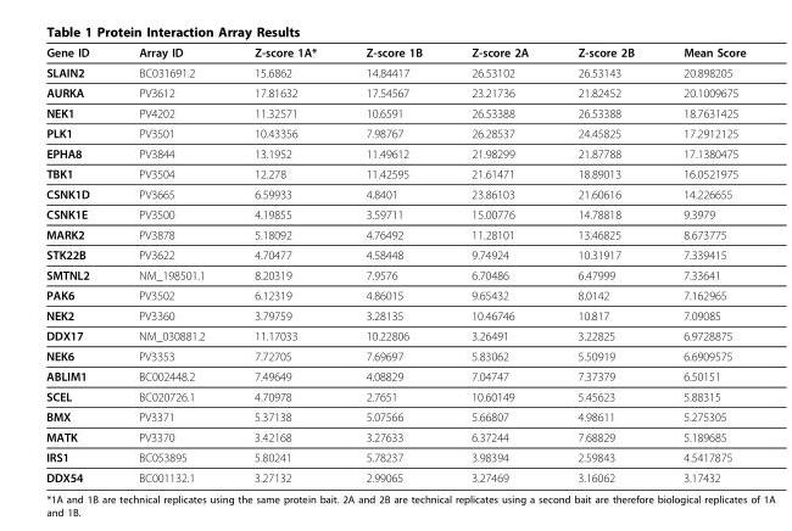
<table><thead><tr><td>Gene ID</td><td>Array ID</td><td>Z-score 1A*</td><td>Z-score 1B</td><td>Z-score 2A</td><td>Z-score 2B</td><td>Mean Score</td></tr></thead><tbody><tr><td>SLAIN2</td><td>BC031691.2</td><td>15.6862</td><td>14.84417</td><td>26.53102</td><td>26.53143</td><td>20.898205</td></tr><tr><td>AURKA</td><td>PV3612</td><td>17.81632</td><td>17.54567</td><td>23.21736</td><td>21.82452</td><td>20.1009675</td></tr><tr><td>NEK1</td><td>PV4202</td><td>11.32571</td><td>10.6591</td><td>26.53388</td><td>26.53388</td><td>18.7631425</td></tr><tr><td>PLK1</td><td>PV3501</td><td>10.43356</td><td>7.98767</td><td>26.28537</td><td>24.45825</td><td>17.2912125</td></tr><tr><td>EPHA8</td><td>PV3844</td><td>13.1952</td><td>11.49612</td><td>21.98299</td><td>21.87788</td><td>17.1380475</td></tr><tr><td>TBK1</td><td>PV3504</td><td>12.278</td><td>11.42595</td><td>21.61471</td><td>18.89013</td><td>16.0521975</td></tr><tr><td>CSNK1D</td><td>PV3665</td><td>6.59933</td><td>4.8401</td><td>23.86103</td><td>21.60616</td><td>14.226655</td></tr><tr><td>CSNK1E</td><td>PV3500</td><td>4.19855</td><td>3.59711</td><td>15.00776</td><td>14.78818</td><td>9.3979</td></tr><tr><td>MARK2</td><td>PV3878</td><td>5.18092</td><td>4.76492</td><td>11.28101</td><td>13.46825</td><td>8.673775</td></tr><tr><td>STK22B</td><td>PV3622</td><td>4.70477</td><td>4.58448</td><td>9.74924</td><td>10.31917</td><td>7.339415</td></tr><tr><td>SMTNL2</td><td>NM_198501.1</td><td>8.20319</td><td>7.9576</td><td>6.70486</td><td>6.47999</td><td>7.33641</td></tr><tr><td>PAK6</td><td>PV3502</td><td>6.12319</td><td>4.86015</td><td>9.65432</td><td>8.0142</td><td>7.162965</td></tr><tr><td>NEK2</td><td>PV3360</td><td>3.79759</td><td>3.28135</td><td>10.46746</td><td>10.817</td><td>7.09085</td></tr><tr><td>DDX17</td><td>NM_030881.2</td><td>11.17033</td><td>10.22806</td><td>3.26491</td><td>3.22825</td><td>6.9728875</td></tr><tr><td>NEK6</td><td>PV3353</td><td>7.72705</td><td>7.69697</td><td>5.83062</td><td>5.50919</td><td>6.6909575</td></tr><tr><td>ABLIM1</td><td>BC002448.2</td><td>7.49649</td><td>4.08829</td><td>7.04747</td><td>7.37379</td><td>6.50151</td></tr><tr><td>SCEL</td><td>BC020726.1</td><td>4.70978</td><td>2.7651</td><td>10.60149</td><td>5.45623</td><td>5.88315</td></tr><tr><td>BMX</td><td>PV3371</td><td>5.37138</td><td>5.07566</td><td>5.66807</td><td>4.98611</td><td>5.275305</td></tr><tr><td>MATK</td><td>PV3370</td><td>3.42168</td><td>3.27633</td><td>6.37244</td><td>7.68829</td><td>5.189685</td></tr><tr><td>IRS1</td><td>BC053895</td><td>5.80241</td><td>5.78237</td><td>3.98394</td><td>2.59843</td><td>4.5417875</td></tr><tr><td>DDX54</td><td>BC001132.1</td><td>3.27132</td><td>2.99065</td><td>3.27469</td><td>3.16062</td><td>3.17432</td></tr></tbody></table>